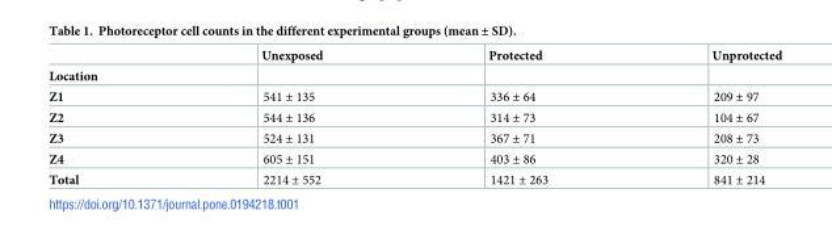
<table><thead><tr><td rowspan="2">Location</td><td rowspan="2">Unexposed</td><td rowspan="2">Protected</td><td rowspan="2">Unprotected</td></tr><tr></tr></thead><tbody><tr><td>Z1</td><td>541 ± 135</td><td>336 ± 64</td><td>209 ± 97</td></tr><tr><td>Z2</td><td>544 ± 136</td><td>314 ± 73</td><td>104 ± 67</td></tr><tr><td>Z3</td><td>524 ± 131</td><td>367 ± 71</td><td>208 ± 73</td></tr><tr><td>Z4</td><td>605 ± 151</td><td>403 ± 86</td><td>320 ± 28</td></tr><tr><td>Total</td><td>2214 ± 552</td><td>1421 ± 263</td><td>841 ± 214</td></tr></tbody></table>